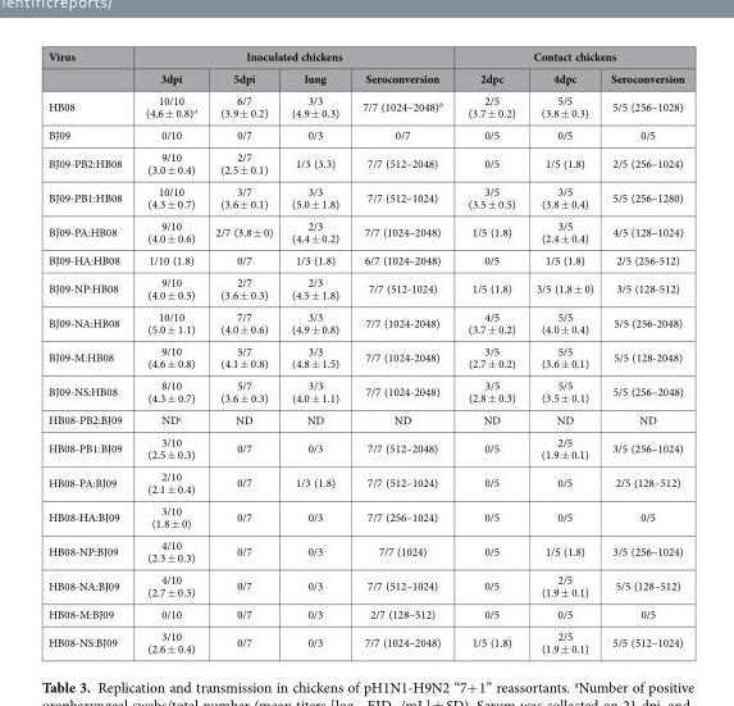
<table><thead><tr><td rowspan="2">Virus</td><td colspan="4">Inoculated chickens</td><td colspan="3">Contact chickens</td></tr><tr><td>3dpi</td><td>5dpi</td><td>lung</td><td>Seroconversion</td><td>2dpc</td><td>4dpc</td><td>Seroconversion</td></tr></thead><tbody><tr><td>HB08</td><td>10/10 (4.6 ± 0.8)<sup>a</sup></td><td>6/7 (3.9 ± 0.2)</td><td>3/3 (4.9 ± 0.3)</td><td>7/7 (1024–2048)<sup>b</sup></td><td>2/5 (3.7 ± 0.2)</td><td>5/5 (3.8 ± 0.3)</td><td>5/5 (256–1028)</td></tr><tr><td>BJ09</td><td>0/10</td><td>0/7</td><td>0/3</td><td>0/7</td><td>0/5</td><td>0/5</td><td>0/5</td></tr><tr><td>BJ09-PB2:HB08</td><td>9/10 (3.0 ± 0.4)</td><td>2/7 (2.5 ± 0.1)</td><td>1/3 (3.3)</td><td>7/7 (512–2048)</td><td>0/5</td><td>1/5 (1.8)</td><td>2/5 (256–1024)</td></tr><tr><td>BJ09-PB1:HB08</td><td>10/10 (4.3 ± 0.7)</td><td>3/7 (3.6 ± 0.1)</td><td>3/3 (5.0 ± 1.8)</td><td>7/7 (512–1024)</td><td>3/5 (3.5 ± 0.5)</td><td>3/5 (3.8 ± 0.4)</td><td>5/5 (256–1280)</td></tr><tr><td>BJ09-PA:HB08</td><td>9/10 (4.0 ± 0.6)</td><td>2/7 (3.8 ± 0)</td><td>2/3 (4.4 ± 0.2)</td><td>7/7 (1024–2048)</td><td>1/5 (1.8)</td><td>3/5 (2.4 ± 0.4)</td><td>4/5 (128–1024)</td></tr><tr><td>BJ09-HA:HB08</td><td>1/10 (1.8)</td><td>0/7</td><td>1/3 (1.8)</td><td>6/7 (1024–2048)</td><td>0/5</td><td>1/5 (1.8)</td><td>2/5 (256-512)</td></tr><tr><td>BJ09-NP:HB08</td><td>9/10 (4.0 ± 0.5)</td><td>2/7 (3.6 ± 0.3)</td><td>2/3 (4.5 ± 1.8)</td><td>7/7 (512-1024)</td><td>1/5 (1.8)</td><td>3/5 (1.8 ± 0)</td><td>3/5 (128-512)</td></tr><tr><td>BJ09-NA:HB08</td><td>10/10 (5.0 ± 1.1)</td><td>7/7 (4.0 ± 0.6)</td><td>3/3 (4.9 ± 0.8)</td><td>7/7 (1024-2048)</td><td>4/5 (3.7 ± 0.2)</td><td>5/5 (4.0 ± 0.4)</td><td>5/5 (256-2048)</td></tr><tr><td>BJ09-M:HB08</td><td>9/10 (4.6 ± 0.8)</td><td>5/7 (4.1 ± 0.8)</td><td>3/3 (4.8 ± 1.5)</td><td>7/7 (1024-2048)</td><td>3/5 (2.7 ± 0.2)</td><td>5/5 (3.6 ± 0.1)</td><td>5/5 (128-2048)</td></tr><tr><td>BJ09-NS:HB08</td><td>8/10 (4.3 ± 0.7)</td><td>5/7 (3.6 ± 0.3)</td><td>3/3 (4.0 ± 1.1)</td><td>7/7 (1024-2048)</td><td>3/5 (2.8 ± 0.3)</td><td>5/5 (3.5 ± 0.1)</td><td>5/5 (256–2048)</td></tr><tr><td>HB08-PB2:BJ09</td><td>ND<sup>c</sup></td><td>ND</td><td>ND</td><td>ND</td><td>ND</td><td>ND</td><td>ND</td></tr><tr><td>HB08-PB1:BJ09</td><td>3/10 (2.5 ± 0.3)</td><td>0/7</td><td>0/3</td><td>7/7 (512–2048)</td><td>0/5</td><td>2/5 (1.9 ± 0.1)</td><td>3/5 (256–1024)</td></tr><tr><td>HB08-PA:BJ09</td><td>2/10 (2.1 ± 0.4)</td><td>0/7</td><td>1/3 (1.8)</td><td>7/7 (512–1024)</td><td>0/5</td><td>0/5</td><td>2/5 (128–512)</td></tr><tr><td>HB08-HA:BJ09</td><td>3/10 (1.8 ± 0)</td><td>0/7</td><td>0/3</td><td>7/7 (256–1024)</td><td>0/5</td><td>0/5</td><td>0/5</td></tr><tr><td>HB08-NP:BJ09</td><td>4/10 (2.3 ± 0.3)</td><td>0/7</td><td>0/3</td><td>7/7 (1024)</td><td>0/5</td><td>1/5 (1.8)</td><td>3/5 (256–1024)</td></tr><tr><td>HB08-NA:BJ09</td><td>4/10 (2.7 ± 0.3)</td><td>0/7</td><td>0/3</td><td>7/7 (512–1024)</td><td>0/5</td><td>2/5 (1.9 ± 0.1)</td><td>5/5 (128–512)</td></tr><tr><td>HB08-M:BJ09</td><td>0/10</td><td>0/7</td><td>0/3</td><td>2/7 (128–512)</td><td>0/5</td><td>0/5</td><td>0/5</td></tr><tr><td>HB08-NS:BJ09</td><td>3/10 (2.6 ± 0.4)</td><td>0/7</td><td>0/3</td><td>7/7 (1024–2048)</td><td>1/5 (1.8)</td><td>2/5 (1.9 ± 0.1)</td><td>5/5 (512–1024)</td></tr></tbody></table>